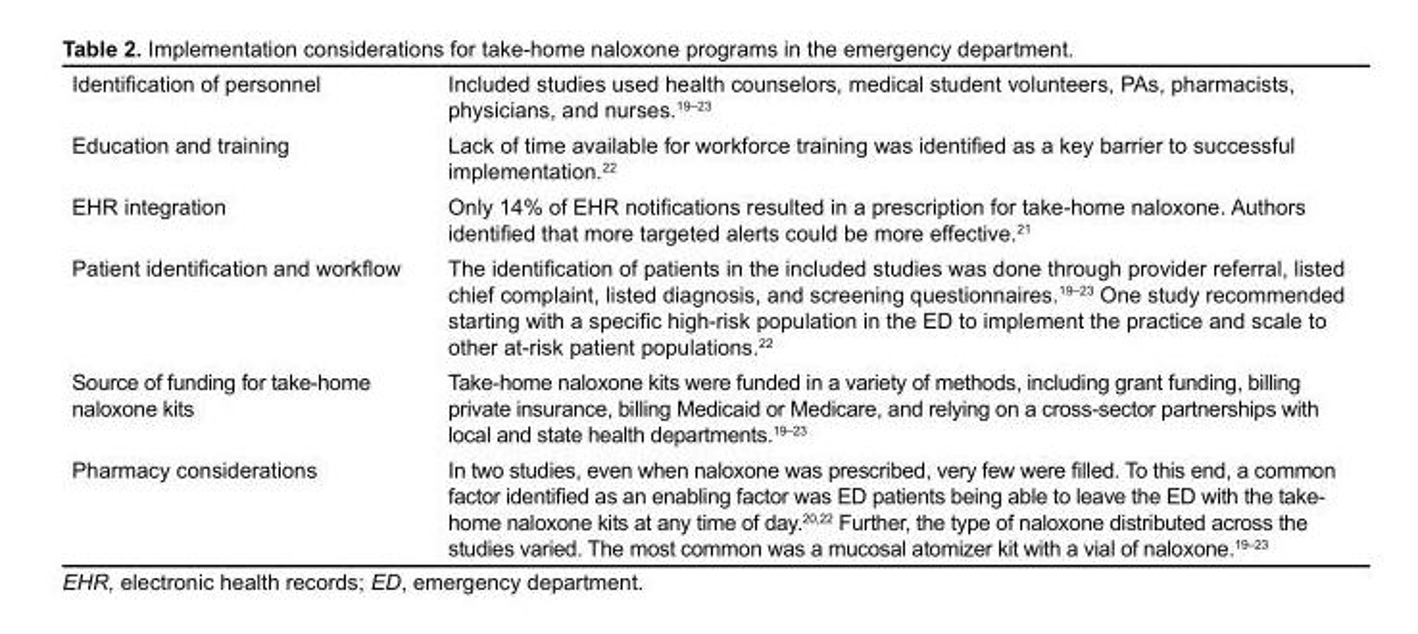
<table><tbody><tr><td>Identification of personnel</td><td>Included studies used health counselors, medical student volunteers, PAs, pharmacists, physicians, and nurses.<sup>19</sup>–<sup>23</sup></td></tr><tr><td>Education and training</td><td>Lack of time available for workforce training was identified as a key barrier to successful implementation.<sup>22</sup></td></tr><tr><td>EHR integration</td><td>Only 14% of EHR notifications resulted in a prescription for take-home naloxone. Authors identified that more targeted alerts could be more effective.<sup>21</sup></td></tr><tr><td>Patient identification and workflow</td><td>The identification of patients in the included studies was done through provider referral, listed chief complaint, listed diagnosis, and screening questionnaires.<sup>19</sup>–<sup>23</sup> One study recommended starting with a specific high-risk population in the ED to implement the practice and scale to other at-risk patient populations.<sup>22</sup></td></tr><tr><td>Source of funding for take-home naloxone kits</td><td>Take-home naloxone kits were funded in a variety of methods, including grant funding, billing private insurance, billing Medicaid or Medicare, and relying on a cross-sector partnerships with local and state health departments.<sup>19</sup>–<sup>23</sup></td></tr><tr><td>Pharmacy considerations</td><td>In two studies, even when naloxone was prescribed, very few were filled. To this end, a common factor identified as an enabling factor was ED patients being able to leave the ED with the take- home naloxone kits at any time of day.<sup>20</sup>,<sup>22</sup> Further, the type of naloxone distributed across the studies varied. The most common was a mucosal atomizer kit with a vial of naloxone.<sup>19</sup>–<sup>23</sup></td></tr></tbody></table>